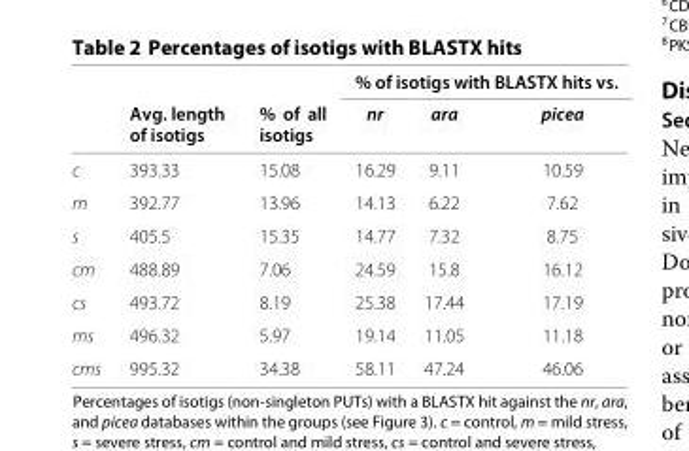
<table><thead><tr><td rowspan="2"></td><td rowspan="2">Avg. length of isotigs</td><td rowspan="2">% of all isotigs</td><td colspan="3">% of isotigs with BLASTX hits vs.</td></tr><tr><td>nr</td><td>ara</td><td>picea</td></tr></thead><tbody><tr><td>c</td><td>393.33</td><td>15.08</td><td>16.29</td><td>9.11</td><td>10.59</td></tr><tr><td>m</td><td>392.77</td><td>13.96</td><td>14.13</td><td>6.22</td><td>7.62</td></tr><tr><td>s</td><td>405.5</td><td>15.35</td><td>14.77</td><td>7.32</td><td>8.75</td></tr><tr><td>cm</td><td>488.89</td><td>7.06</td><td>24.59</td><td>15.8</td><td>16.12</td></tr><tr><td>cs</td><td>493.72</td><td>8.19</td><td>25.38</td><td>17.44</td><td>17.19</td></tr><tr><td>ms</td><td>496.32</td><td>5.97</td><td>19.14</td><td>11.05</td><td>11.18</td></tr><tr><td>cms</td><td>995.32</td><td>34.38</td><td>58.11</td><td>47.24</td><td>46.06</td></tr></tbody></table>